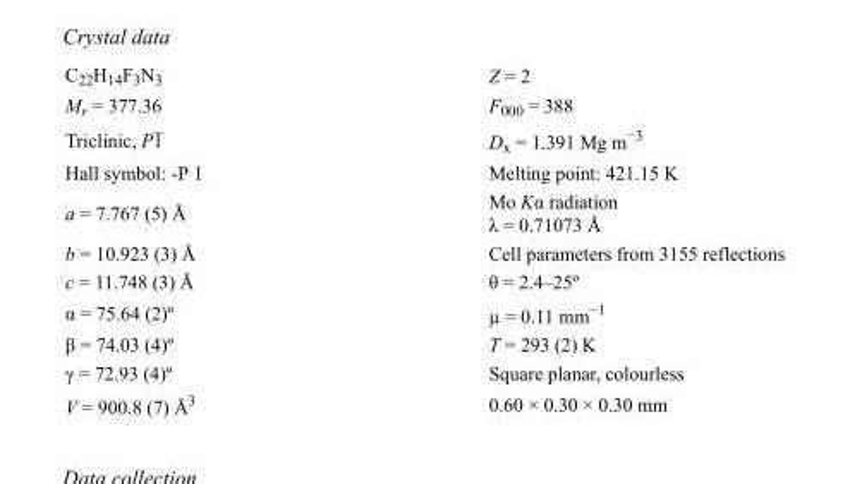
<table><tbody><tr><td>C<sub>22</sub>H<sub>14</sub>F<sub>3</sub>N<sub>3</sub></td><td>Z = 2</td></tr><tr><td>M<sub>r</sub> = 377.36</td><td>F000 = 388</td></tr><tr><td>Triclinic, P1</td><td>D<sub>x</sub> = 1.391 Mg m<sup>−3</sup></td></tr><tr><td>Hall symbol: -P 1</td><td>Melting point: 421.15 K</td></tr><tr><td>a = 7.767 (5) Å</td><td>Mo Kα radiation λ = 0.71073 Å</td></tr><tr><td>b = 10.923 (3) Å</td><td>Cell parameters from 3155 reflections</td></tr><tr><td>c = 11.748 (3) Å</td><td>θ = 2.4–25º</td></tr><tr><td>α = 75.64 (2)º</td><td>µ = 0.11 mm<sup>−1</sup></td></tr><tr><td>β = 74.03 (4)º</td><td>T = 293 (2) K</td></tr><tr><td>γ = 72.93 (4)º</td><td>Square planar, colourless</td></tr><tr><td>V = 900.8 (7) Å<sup>3</sup></td><td>0.60 × 0.30 × 0.30 mm</td></tr></tbody></table>